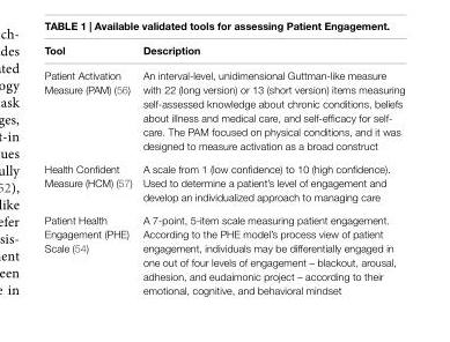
<table><thead><tr><td>tool</td><td>Description</td></tr></thead><tbody><tr><td>Patient Activation Measure (PAM) (56)</td><td>An interval-level, unidimensional Guttman-like measure with 22 (long version) or 13 (short version) items measuring self-assessed knowledge about chronic conditions, beliefs about illness and medical care, and self-efficacy for self- care. The PAM focused on physical conditions, and it was designed to measure activation as a broad construct</td></tr><tr><td>Health Confident Measure (HCM) (57)</td><td>A scale from 1 (low confidence) to 10 (high confidence). Used to determine a patient’s level of engagement and develop an individualized approach to managing care</td></tr><tr><td>Patient Health Engagement (PHE) Scale (54)</td><td>A 7-point, 5-item scale measuring patient engagement. According to the PHE model’s process view of patient engagement, individuals may be differentially engaged in one out of four levels of engagement – blackout, arousal, adhesion, and eudaimonic project – according to their emotional, cognitive, and behavioral mindset</td></tr></tbody></table>